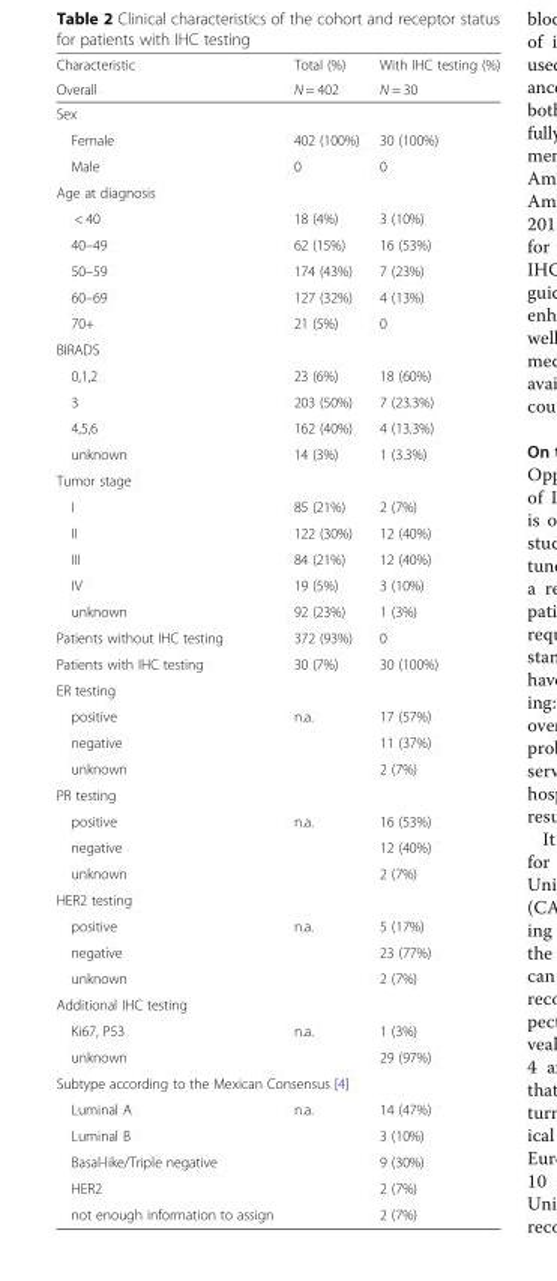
<table><thead><tr><td rowspan="2">Characteristic Overall</td><td rowspan="2">Total (%) N = 402</td><td rowspan="2">With IHC testing (%) N = 30</td></tr><tr></tr></thead><tbody><tr><td colspan="3">Sex</td></tr><tr><td>Female</td><td>402 (100%)</td><td>30 (100%)</td></tr><tr><td>Male</td><td>0</td><td>0</td></tr><tr><td colspan="3">Age at diagnosis</td></tr><tr><td>&lt; 40</td><td>18 (4%)</td><td>3 (10%)</td></tr><tr><td>40–49</td><td>62 (15%)</td><td>16 (53%)</td></tr><tr><td>50–59</td><td>174 (43%)</td><td>7 (23%)</td></tr><tr><td>60–69</td><td>127 (32%)</td><td>4 (13%)</td></tr><tr><td>70+</td><td>21 (5%)</td><td>0</td></tr><tr><td colspan="3">BIRADS</td></tr><tr><td>0,1,2</td><td>23 (6%)</td><td>18 (60%)</td></tr><tr><td>3</td><td>203 (50%)</td><td>7 (23.3%)</td></tr><tr><td>4,5,6</td><td>162 (40%)</td><td>4 (13.3%)</td></tr><tr><td>unknown</td><td>14 (3%)</td><td>1 (3.3%)</td></tr><tr><td colspan="3">Tumor stage</td></tr><tr><td>I</td><td>85 (21%)</td><td>2 (7%)</td></tr><tr><td>II</td><td>122 (30%)</td><td>12 (40%)</td></tr><tr><td>III</td><td>84 (21%)</td><td>12 (40%)</td></tr><tr><td>IV</td><td>19 (5%)</td><td>3 (10%)</td></tr><tr><td>unknown</td><td>92 (23%)</td><td>1 (3%)</td></tr><tr><td>Patients without IHC testing</td><td>372 (93%)</td><td>0</td></tr><tr><td>Patients with IHC testing</td><td>30 (7%)</td><td>30 (100%)</td></tr><tr><td colspan="3">ER testing</td></tr><tr><td>positive</td><td rowspan="3">n.a.</td><td>17 (57%)</td></tr><tr><td>negative</td><td>11 (37%)</td></tr><tr><td>unknown</td><td>2 (7%)</td></tr><tr><td colspan="3">PR testing</td></tr><tr><td>positive</td><td rowspan="3">n.a.</td><td>16 (53%)</td></tr><tr><td>negative</td><td>12 (40%)</td></tr><tr><td>unknown</td><td>2 (7%)</td></tr><tr><td colspan="3">HER2 testing</td></tr><tr><td>positive</td><td rowspan="3">n.a.</td><td>5 (17%)</td></tr><tr><td>negative</td><td>23 (77%)</td></tr><tr><td>unknown</td><td>2 (7%)</td></tr><tr><td colspan="3">Additional IHC testing</td></tr><tr><td>Ki67, P53</td><td rowspan="2">n.a.</td><td>1 (3%)</td></tr><tr><td>unknown</td><td>29 (97%)</td></tr><tr><td colspan="3">Subtype according to the Mexican Consensus [4]</td></tr><tr><td>Luminal A</td><td rowspan="5">n.a.</td><td>14 (47%)</td></tr><tr><td>Luminal B</td><td>3 (10%)</td></tr><tr><td>Basal-like/Triple negative</td><td>9 (30%)</td></tr><tr><td>HER2</td><td>2 (7%)</td></tr><tr><td>not enough information to assign</td><td>2 (7%)</td></tr></tbody></table>